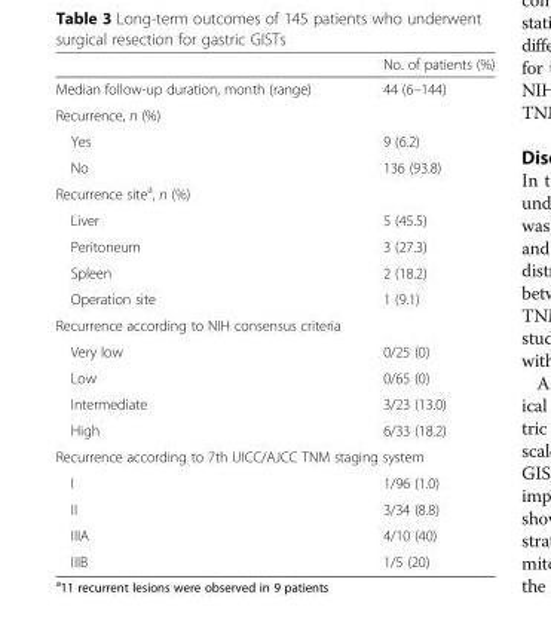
<table><thead><tr><td></td><td>No. of patients (%)</td></tr></thead><tbody><tr><td>Median follow-up duration, month (range)</td><td>44 (6–144)</td></tr><tr><td colspan="2">Recurrence, n (%)</td></tr><tr><td>Yes</td><td>9 (6.2)</td></tr><tr><td>No</td><td>136 (93.8)</td></tr><tr><td colspan="2">Recurrence site<sup>a</sup>, n (%)</td></tr><tr><td>Liver</td><td>5 (45.5)</td></tr><tr><td>Peritoneum</td><td>3 (27.3)</td></tr><tr><td>Spleen</td><td>2 (18.2)</td></tr><tr><td>Operation site</td><td>1 (9.1)</td></tr><tr><td colspan="2">Recurrence according to NIH consensus criteria</td></tr><tr><td>Very low</td><td>0/25 (0)</td></tr><tr><td>Low</td><td>0/65 (0)</td></tr><tr><td>Intermediate</td><td>3/23 (13.0)</td></tr><tr><td>High</td><td>6/33 (18.2)</td></tr><tr><td colspan="2">Recurrence according to 7th UICC/AJCC TNM staging system</td></tr><tr><td>I</td><td>1/96 (1.0)</td></tr><tr><td>II</td><td>3/34 (8.8)</td></tr><tr><td>IIIA</td><td>4/10 (40)</td></tr><tr><td>IIIB</td><td>1/5 (20)</td></tr></tbody></table>